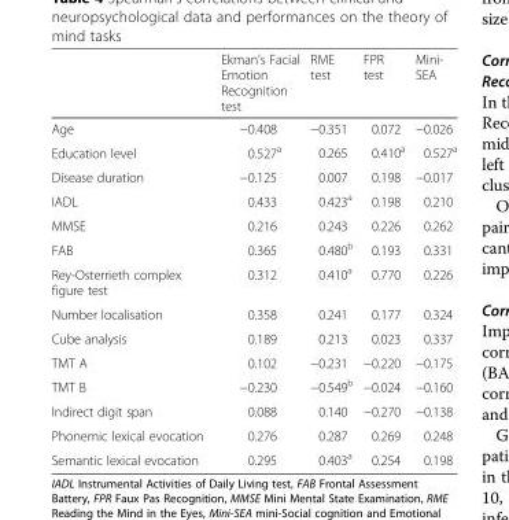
<table><thead><tr><td></td><td>Ekman’s Facial Emotion Recognition test</td><td>RME test</td><td>FPR test</td><td>Mini- SEA</td></tr></thead><tbody><tr><td>Age</td><td>−0.408</td><td>−0.351</td><td>0.072</td><td>−0.026</td></tr><tr><td>Education level</td><td>0.527<sup>a</sup></td><td>0.265</td><td>0.410<sup>a</sup></td><td>0.527<sup>a</sup></td></tr><tr><td>Disease duration</td><td>−0.125</td><td>0.007</td><td>0.198</td><td>−0.017</td></tr><tr><td>IADL</td><td>0.433</td><td>0.423<sup>a</sup></td><td>0.198</td><td>0.210</td></tr><tr><td>MMSE</td><td>0.216</td><td>0.243</td><td>0.226</td><td>0.262</td></tr><tr><td>FAB</td><td>0.365</td><td>0.480<sup>b</sup></td><td>0.193</td><td>0.331</td></tr><tr><td>Rey-Osterrieth complex figure test</td><td>0.312</td><td>0.410<sup>a</sup></td><td>0.770</td><td>0.226</td></tr><tr><td>Number localisation</td><td>0.358</td><td>0.241</td><td>0.177</td><td>0.324</td></tr><tr><td>Cube analysis</td><td>0.189</td><td>0.213</td><td>0.023</td><td>0.337</td></tr><tr><td>TMT A</td><td>0.102</td><td>−0.231</td><td>−0.220</td><td>−0.175</td></tr><tr><td>TMT B</td><td>−0.230</td><td>−0.549<sup>b</sup></td><td>−0.024</td><td>−0.160</td></tr><tr><td>Indirect digit span</td><td>0.088</td><td>0.140</td><td>−0.270</td><td>−0.138</td></tr><tr><td>Phonemic lexical evocation</td><td>0.276</td><td>0.287</td><td>0.269</td><td>0.248</td></tr><tr><td>Semantic lexical evocation</td><td>0.295</td><td>0.403<sup>a</sup></td><td>0.254</td><td>0.198</td></tr></tbody></table>